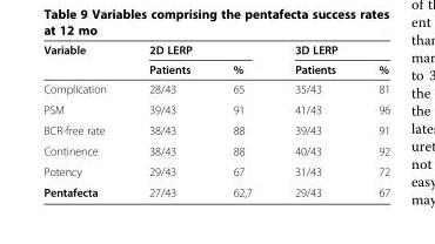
<table><thead><tr><td rowspan="2">Variable</td><td colspan="2">2D LERP</td><td colspan="2">3D LERP</td></tr><tr><td>Patients</td><td>%</td><td>Patients</td><td>%</td></tr></thead><tbody><tr><td>Complication</td><td>28/43</td><td>65</td><td>35/43</td><td>81</td></tr><tr><td>PSM</td><td>39/43</td><td>91</td><td>41/43</td><td>96</td></tr><tr><td>BCR-free rate</td><td>38/43</td><td>88</td><td>39/43</td><td>91</td></tr><tr><td>Continence</td><td>38/43</td><td>88</td><td>40/43</td><td>92</td></tr><tr><td>Potency</td><td>29/43</td><td>67</td><td>31/43</td><td>72</td></tr><tr><td>Pentafecta</td><td>27/43</td><td>62,7</td><td>29/43</td><td>67</td></tr></tbody></table>